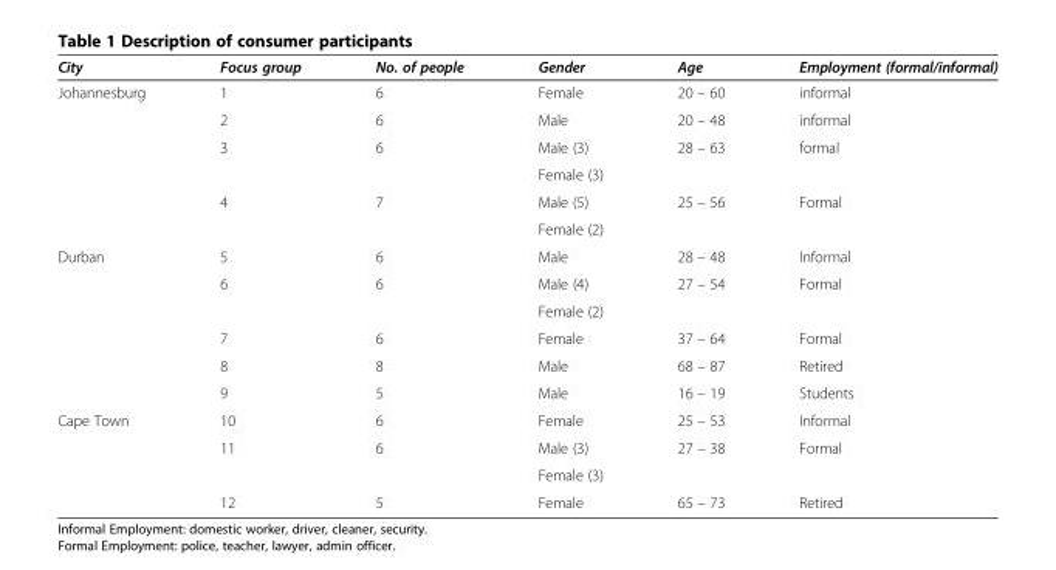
<table><thead><tr><td>City</td><td>Focus group</td><td>No. of people</td><td>Gender</td><td>Age</td><td>Employment (formal/informal)</td></tr></thead><tbody><tr><td rowspan="6">Johannesburg</td><td>1</td><td>6</td><td>Female</td><td>20 – 60</td><td>informal</td></tr><tr><td>2</td><td>6</td><td>Male</td><td>20 – 48</td><td>informal</td></tr><tr><td>3</td><td>6</td><td>Male (3)</td><td>28 – 63</td><td>formal</td></tr><tr><td></td><td></td><td>Female (3)</td><td></td><td></td></tr><tr><td>4</td><td>7</td><td>Male (5)</td><td>25 – 56</td><td>Formal</td></tr><tr><td></td><td></td><td>Female (2)</td><td></td><td></td></tr><tr><td rowspan="6">Durban</td><td>5</td><td>6</td><td>Male</td><td>28 – 48</td><td>Informal</td></tr><tr><td>6</td><td>6</td><td>Male (4)</td><td>27 – 54</td><td>Formal</td></tr><tr><td></td><td></td><td>Female (2)</td><td></td><td></td></tr><tr><td>7</td><td>6</td><td>Female</td><td>37 – 64</td><td>Formal</td></tr><tr><td>8</td><td>8</td><td>Male</td><td>68 – 87</td><td>Retired</td></tr><tr><td>9</td><td>5</td><td>Male</td><td>16 – 19</td><td>Students</td></tr><tr><td rowspan="4">Cape Town</td><td>10</td><td>6</td><td>Female</td><td>25 – 53</td><td>Informal</td></tr><tr><td>11</td><td>6</td><td>Male (3)</td><td>27 – 38</td><td>Formal</td></tr><tr><td></td><td></td><td>Female (3)</td><td></td><td></td></tr><tr><td>12</td><td>5</td><td>Female</td><td>65 – 73</td><td>Retired</td></tr></tbody></table>